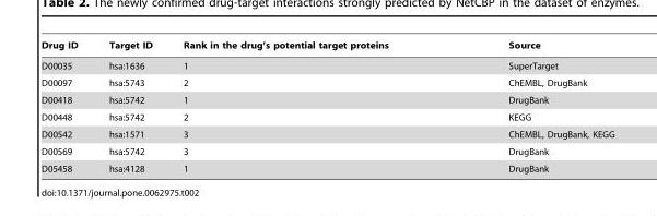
<table><thead><tr><td>Drug ID</td><td>Target ID</td><td>Rank in the drug’s potential target proteins</td><td>Source</td></tr></thead><tbody><tr><td>D00035</td><td>hsa:1636</td><td>1</td><td>SuperTarget</td></tr><tr><td>D00097</td><td>hsa:5743</td><td>2</td><td>ChEMBL, DrugBank</td></tr><tr><td>D00418</td><td>hsa:5742</td><td>1</td><td>DrugBank</td></tr><tr><td>D00448</td><td>hsa:5742</td><td>2</td><td>KEGG</td></tr><tr><td>D00542</td><td>hsa:1571</td><td>3</td><td>ChEMBL, DrugBank, KEGG</td></tr><tr><td>D00569</td><td>hsa:5742</td><td>3</td><td>DrugBank</td></tr><tr><td>D05458</td><td>hsa:4128</td><td>1</td><td>DrugBank</td></tr></tbody></table>